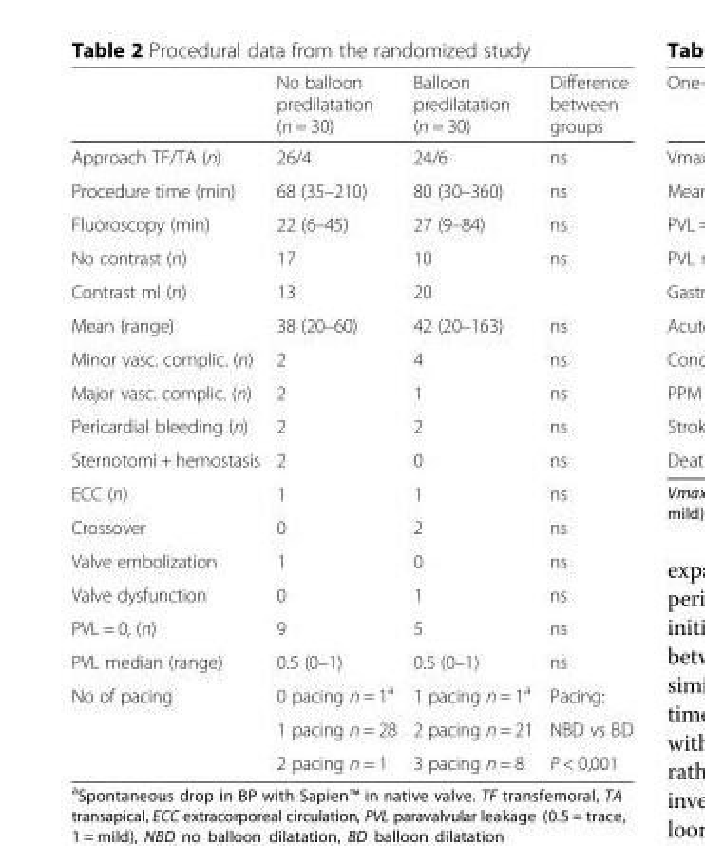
<table><thead><tr><td></td><td>No balloon predilatation (n = 30)</td><td>Balloon predilatation (n = 30)</td><td>Difference between groups</td></tr></thead><tbody><tr><td>Approach TF/TA (n)</td><td>26/4</td><td>24/6</td><td>ns</td></tr><tr><td>Procedure time (min)</td><td>68 (35–210)</td><td>80 (30–360)</td><td>ns</td></tr><tr><td>Fluoroscopy (min)</td><td>22 (6–45)</td><td>27 (9–84)</td><td>ns</td></tr><tr><td>No contrast (n)</td><td>17</td><td>10</td><td>ns</td></tr><tr><td>Contrast ml (n)</td><td>13</td><td>20</td><td></td></tr><tr><td>Mean (range)</td><td>38 (20–60)</td><td>42 (20–163)</td><td>ns</td></tr><tr><td>Minor vasc. complic. (n)</td><td>2</td><td>4</td><td>ns</td></tr><tr><td>Major vasc. complic. (n)</td><td>2</td><td>1</td><td>ns</td></tr><tr><td>Pericardial bleeding (n)</td><td>2</td><td>2</td><td>ns</td></tr><tr><td>Sternotomi + hemostasis</td><td>2</td><td>0</td><td>ns</td></tr><tr><td>ECC (n)</td><td>1</td><td>1</td><td>ns</td></tr><tr><td>Crossover</td><td>0</td><td>2</td><td>ns</td></tr><tr><td>Valve embolization</td><td>1</td><td>0</td><td>ns</td></tr><tr><td>Valve dysfunction</td><td>0</td><td>1</td><td>ns</td></tr><tr><td>PVL = 0, (n)</td><td>9</td><td>5</td><td>ns</td></tr><tr><td>PVL median (range)</td><td>0.5 (0–1)</td><td>0.5 (0–1)</td><td>ns</td></tr><tr><td rowspan="3">No of pacing</td><td>0 pacing n = 1<sup>a</sup></td><td>1 pacing n = 1<sup>a</sup></td><td>Pacing:</td></tr><tr><td>1 pacing n = 28</td><td>2 pacing n = 21</td><td>NBD vs BD</td></tr><tr><td>2 pacing n = 1</td><td>3 pacing n = 8</td><td>P &lt; 0,001</td></tr></tbody></table>